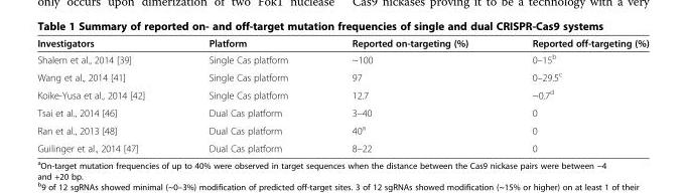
<table><thead><tr><td>Investigators</td><td>Platform</td><td>Reported on-targeting (%)</td><td>Reported off-targeting (%)</td></tr></thead><tbody><tr><td>Shalem et al., 2014 [39]</td><td>Single Cas platform</td><td>~100</td><td>0–15<sup>b</sup></td></tr><tr><td>Wang et al., 2014 [41]</td><td>Single Cas platform</td><td>97</td><td>0–29.5<sup>c</sup></td></tr><tr><td>Koike-Yusa et al., 2014 [42]</td><td>Single Cas platform</td><td>12.7</td><td>~0.7<sup>d</sup></td></tr><tr><td>Tsai et al., 2014 [46]</td><td>Dual Cas platform</td><td>3–40</td><td>0</td></tr><tr><td>Ran et al., 2013 [48]</td><td>Dual Cas platform</td><td>40<sup>a</sup></td><td>0</td></tr><tr><td>Guilinger et al., 2014 [47]</td><td>Dual Cas platform</td><td>8–22</td><td>0</td></tr></tbody></table>